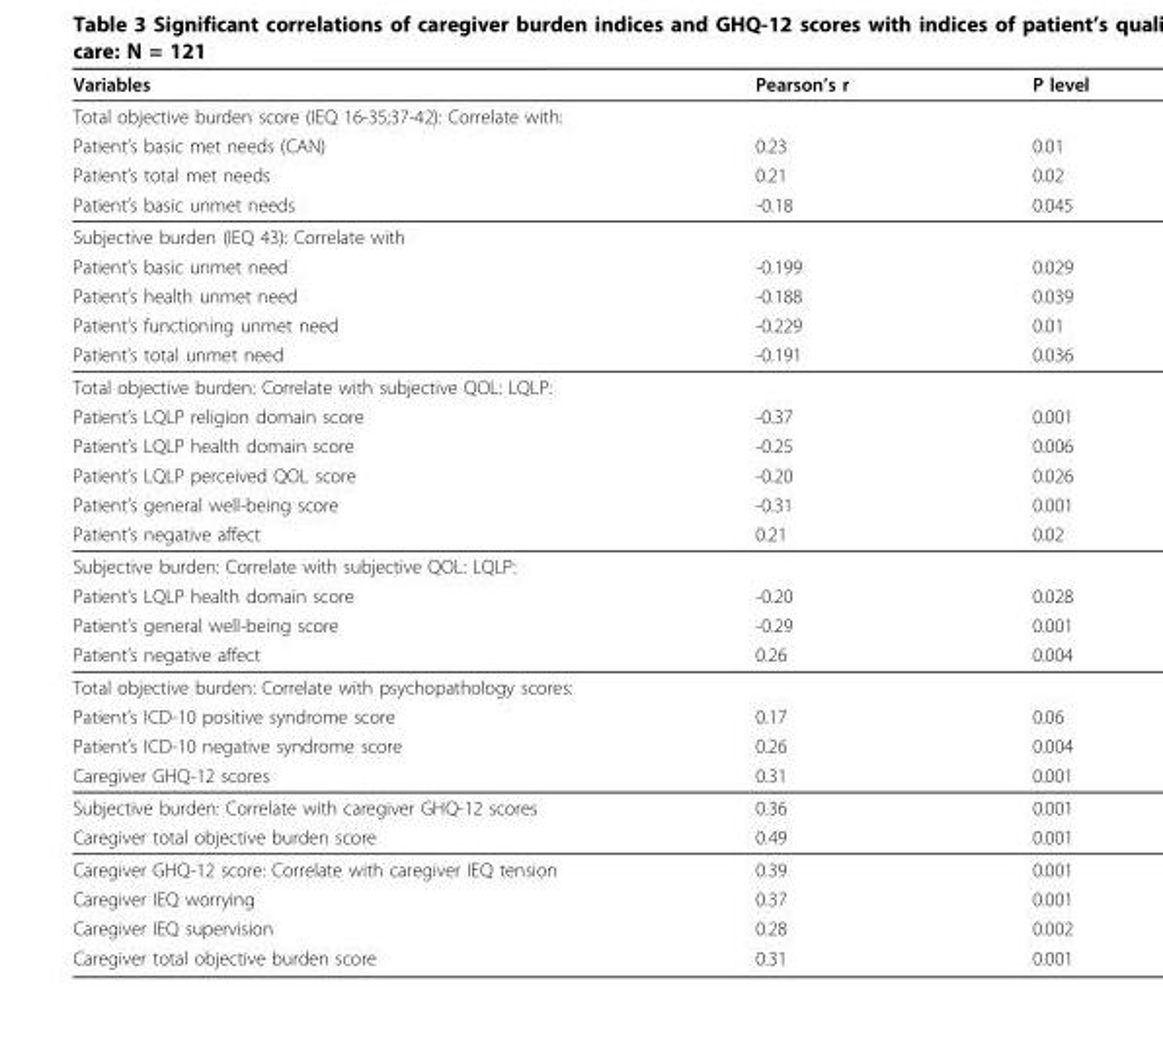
<table><thead><tr><td>Variables</td><td>Pearson’s r</td><td>P level</td></tr></thead><tbody><tr><td colspan="3">Total objective burden score (IEQ 16-35;37-42): Correlate with:</td></tr><tr><td>Patient’s basic met needs (CAN)</td><td>0.23</td><td>0.01</td></tr><tr><td>Patient’s total met needs</td><td>0.21</td><td>0.02</td></tr><tr><td>Patient’s basic unmet needs</td><td>-0.18</td><td>0.045</td></tr><tr><td colspan="3">Subjective burden (IEQ 43): Correlate with</td></tr><tr><td>Patient’s basic unmet need</td><td>-0.199</td><td>0.029</td></tr><tr><td>Patient’s health unmet need</td><td>-0.188</td><td>0.039</td></tr><tr><td>Patient’s functioning unmet need</td><td>-0.229</td><td>0.01</td></tr><tr><td>Patient’s total unmet need</td><td>-0.191</td><td>0.036</td></tr><tr><td colspan="3">Total objective burden: Correlate with subjective QOL: LQLP:</td></tr><tr><td>Patient’s LQLP religion domain score</td><td>-0.37</td><td>0.001</td></tr><tr><td>Patient’s LQLP health domain score</td><td>-0.25</td><td>0.006</td></tr><tr><td>Patient’s LQLP perceived QOL score</td><td>-0.20</td><td>0.026</td></tr><tr><td>Patient’s general well-being score</td><td>-0.31</td><td>0.001</td></tr><tr><td>Patient’s negative affect</td><td>0.21</td><td>0.02</td></tr><tr><td colspan="3">Subjective burden: Correlate with subjective QOL: LQLP:</td></tr><tr><td>Patient’s LQLP health domain score</td><td>-0.20</td><td>0.028</td></tr><tr><td>Patient’s general well-being score</td><td>-0.29</td><td>0.001</td></tr><tr><td>Patient’s negative affect</td><td>0.26</td><td>0.004</td></tr><tr><td colspan="3">Total objective burden: Correlate with psychopathology scores:</td></tr><tr><td>Patient’s ICD-10 positive syndrome score</td><td>0.17</td><td>0.06</td></tr><tr><td>Patient’s ICD-10 negative syndrome score</td><td>0.26</td><td>0.004</td></tr><tr><td>Caregiver GHQ-12 scores</td><td>0.31</td><td>0.001</td></tr><tr><td>Subjective burden: Correlate with caregiver GHQ-12 scores</td><td>0.36</td><td>0.001</td></tr><tr><td>Caregiver total objective burden score</td><td>0.49</td><td>0.001</td></tr><tr><td>Caregiver GHQ-12 score: Correlate with caregiver IEQ tension</td><td>0.39</td><td>0.001</td></tr><tr><td>Caregiver IEQ worrying</td><td>0.37</td><td>0.001</td></tr><tr><td>Caregiver IEQ supervision</td><td>0.28</td><td>0.002</td></tr><tr><td>Caregiver total objective burden score</td><td>0.31</td><td>0.001</td></tr></tbody></table>